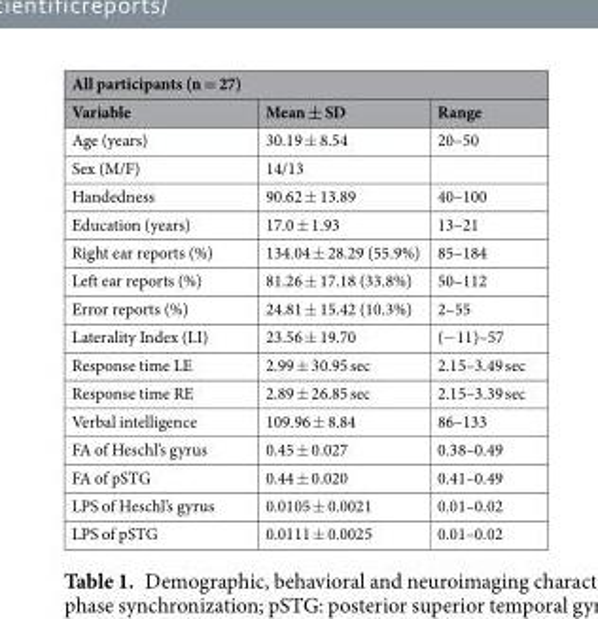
<table><thead><tr><td colspan="3">All participants (n = 27)</td></tr><tr><td>Variable</td><td>Mean ± SD</td><td>Range</td></tr></thead><tbody><tr><td>Age (years)</td><td>30.19 ± 8.54</td><td>20–50</td></tr><tr><td>Sex (M/F)</td><td>14/13</td><td></td></tr><tr><td>Handedness</td><td>90.62 ± 13.89</td><td>40–100</td></tr><tr><td>Education (years)</td><td>17.0 ± 1.93</td><td>13–21</td></tr><tr><td>Right ear reports (%)</td><td>134.04 ± 28.29 (55.9%)</td><td>85–184</td></tr><tr><td>Left ear reports (%)</td><td>81.26 ± 17.18 (33.8%)</td><td>50–112</td></tr><tr><td>Error reports (%)</td><td>24.81 ± 15.42 (10.3%)</td><td>2–55</td></tr><tr><td>Laterality Index (LI)</td><td>23.56 ± 19.70</td><td>(−11)–57</td></tr><tr><td>Response time LE</td><td>2.99 ± 30.95 sec</td><td>2.15–3.49 sec</td></tr><tr><td>Response time RE</td><td>2.89 ± 26.85 sec</td><td>2.15–3.39 sec</td></tr><tr><td>Verbal intelligence</td><td>109.96 ± 8.84</td><td>86–133</td></tr><tr><td>FA of Heschl’s gyrus</td><td>0.45 ± 0.027</td><td>0.38–0.49</td></tr><tr><td>FA of pSTG</td><td>0.44 ± 0.020</td><td>0.41–0.49</td></tr><tr><td>LPS of Heschl’s gyrus</td><td>0.0105 ± 0.0021</td><td>0.01–0.02</td></tr><tr><td>LPS of pSTG</td><td>0.0111 ± 0.0025</td><td>0.01–0.02</td></tr></tbody></table>